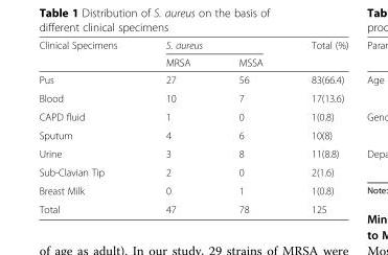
<table><thead><tr><td rowspan="2">Clinical Specimens</td><td colspan="2">S. aureus</td><td rowspan="2">Total (%)</td></tr><tr><td>MRSA</td><td>MSSA</td></tr></thead><tbody><tr><td>Pus</td><td>27</td><td>56</td><td>83(66.4)</td></tr><tr><td>Blood</td><td>10</td><td>7</td><td>17(13.6)</td></tr><tr><td>CAPD fluid</td><td>1</td><td>0</td><td>1(0.8)</td></tr><tr><td>Sputum</td><td>4</td><td>6</td><td>10(8)</td></tr><tr><td>Urine</td><td>3</td><td>8</td><td>11(8.8)</td></tr><tr><td>Sub-Clavian Tip</td><td>2</td><td>0</td><td>2(1.6)</td></tr><tr><td>Breast Milk</td><td>0</td><td>1</td><td>1(0.8)</td></tr><tr><td>Total</td><td>47</td><td>78</td><td>125</td></tr></tbody></table>